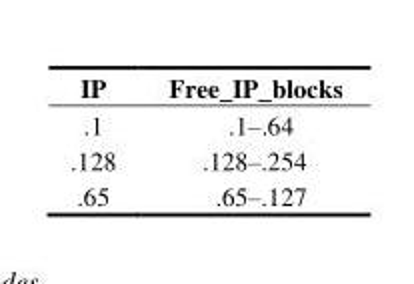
<table><thead><tr><td>IP</td><td>Free_IP_blocks</td></tr></thead><tbody><tr><td>.1</td><td>.1–.64</td></tr><tr><td>.128</td><td>.128–.254</td></tr><tr><td>.65</td><td>.65–.127</td></tr></tbody></table>